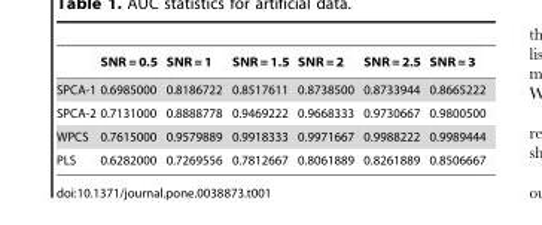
<table><thead><tr><td></td><td>SNR = 0.5</td><td>SNR = 1</td><td>SNR = 1.5</td><td>SNR = 2</td><td>SNR = 2.5</td><td>SNR = 3</td></tr></thead><tbody><tr><td>SPCA-1</td><td>0.6985000</td><td>0.8186722</td><td>0.8517611</td><td>0.8738500</td><td>0.8733944</td><td>0.8665222</td></tr><tr><td>SPCA-2</td><td>0.7131000</td><td>0.8888778</td><td>0.9469222</td><td>0.9668333</td><td>0.9730667</td><td>0.9800500</td></tr><tr><td>WPCS</td><td>0.7615000</td><td>0.9579889</td><td>0.9918333</td><td>0.9971667</td><td>0.9988222</td><td>0.9989444</td></tr><tr><td>PLS</td><td>0.6282000</td><td>0.7269556</td><td>0.7812667</td><td>0.8061889</td><td>0.8261889</td><td>0.8506667</td></tr></tbody></table>